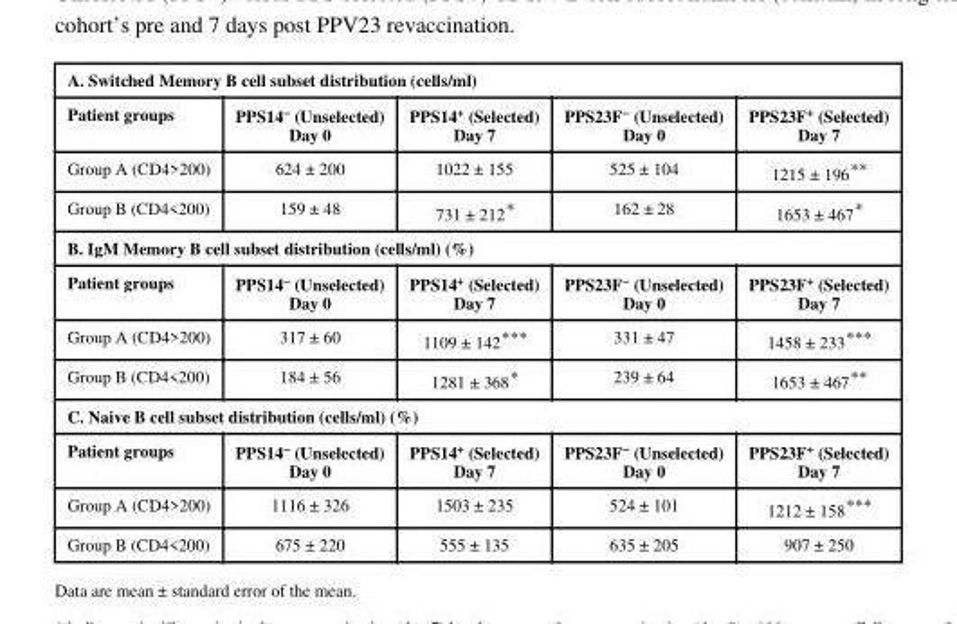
<table><tbody><tr><td colspan="5">A. Switched Memory B cell subset distribution (cells/ml)</td></tr><tr><td>Patient groups</td><td>PPS14<sup>−</sup> (Unselected) Day 0</td><td>PPS14<sup>+</sup> (Selected) Day 7</td><td>PPS23F<sup>−</sup> (Unselected) Day 0</td><td>PPS23F<sup>+</sup> (Selected) Day 7</td></tr><tr><td>Group A (CD4&gt;200)</td><td>624 ± 200</td><td>1022 ± 155</td><td>525 ± 104</td><td>1215 ± 196**</td></tr><tr><td>Group B (CD4&lt;200)</td><td>159 ± 48</td><td>731 ± 212*</td><td>162 ± 28</td><td>1653 ± 467*</td></tr><tr><td colspan="5">B. IgM Memory B cell subset distribution (cells/ml) (%)</td></tr><tr><td>Patient groups</td><td>PPS14<sup>−</sup> (Unselected) Day 0</td><td>PPS14<sup>+</sup> (Selected) Day 7</td><td>PPS23F<sup>−</sup> (Unselected) Day 0</td><td>PPS23F<sup>+</sup> (Selected) Day 7</td></tr><tr><td>Group A (CD4&gt;200)</td><td>317 ± 60</td><td>1109 ± 142***</td><td>331 ± 47</td><td>1458 ± 233***</td></tr><tr><td>Group B (CD4&lt;200)</td><td>184 ± 56</td><td>1281 ± 368*</td><td>239 ± 64</td><td>1653 ± 467**</td></tr><tr><td colspan="5">C. Naive B cell subset distribution (cells/ml) (%)</td></tr><tr><td>Patient groups</td><td>PPS14<sup>−</sup> (Unselected) Day 0</td><td>PPS14<sup>+</sup> (Selected) Day 7</td><td>PPS23F<sup>−</sup> (Unselected) Day 0</td><td>PPS23F<sup>+</sup> (Selected) Day 7</td></tr><tr><td>Group A (CD4&gt;200)</td><td>1116 ± 326</td><td>1503 ± 235</td><td>524 ± 101</td><td>1212 ± 158***</td></tr><tr><td>Group B (CD4&lt;200)</td><td>675 ± 220</td><td>555 ± 135</td><td>635 ± 205</td><td>907 ± 250</td></tr></tbody></table>